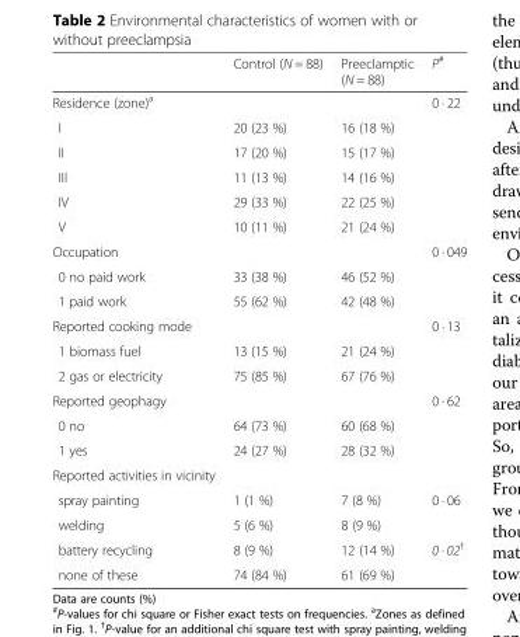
<table><thead><tr><td></td><td>Control (N = 88)</td><td>Preeclamptic (N = 88)</td><td>P<sup>#</sup></td></tr></thead><tbody><tr><td colspan="3">Residence (zone)<sup>a</sup></td><td rowspan="6">0 · 22</td></tr><tr><td>I</td><td>20 (23 %)</td><td>16 (18 %)</td></tr><tr><td>II</td><td>17 (20 %)</td><td>15 (17 %)</td></tr><tr><td>III</td><td>11 (13 %)</td><td>14 (16 %)</td></tr><tr><td>IV</td><td>29 (33 %)</td><td>22 (25 %)</td></tr><tr><td>V</td><td>10 (11 %)</td><td>21 (24 %)</td></tr><tr><td colspan="3">Occupation</td><td rowspan="3">0 · 049</td></tr><tr><td>0 no paid work</td><td>33 (38 %)</td><td>46 (52 %)</td></tr><tr><td>1 paid work</td><td>55 (62 %)</td><td>42 (48 %)</td></tr><tr><td colspan="3">Reported cooking mode</td><td rowspan="3">0 · 13</td></tr><tr><td>1 biomass fuel</td><td>13 (15 %)</td><td>21 (24 %)</td></tr><tr><td>2 gas or electricity</td><td>75 (85 %)</td><td>67 (76 %)</td></tr><tr><td colspan="3">Reported geophagy</td><td rowspan="3">0 · 62</td></tr><tr><td>0 no</td><td>64 (73 %)</td><td>60 (68 %)</td></tr><tr><td>1 yes</td><td>24 (27 %)</td><td>28 (32 %)</td></tr><tr><td colspan="4">Reported activities in vicinity</td></tr><tr><td>spray painting</td><td>1 (1 %)</td><td>7 (8 %)</td><td rowspan="2">0 · 06</td></tr><tr><td>welding</td><td>5 (6 %)</td><td>8 (9 %)</td></tr><tr><td>battery recycling</td><td>8 (9 %)</td><td>12 (14 %)</td><td rowspan="2">0 · 02<sup>†</sup></td></tr><tr><td>none of these</td><td>74 (84 %)</td><td>61 (69 %)</td></tr></tbody></table>